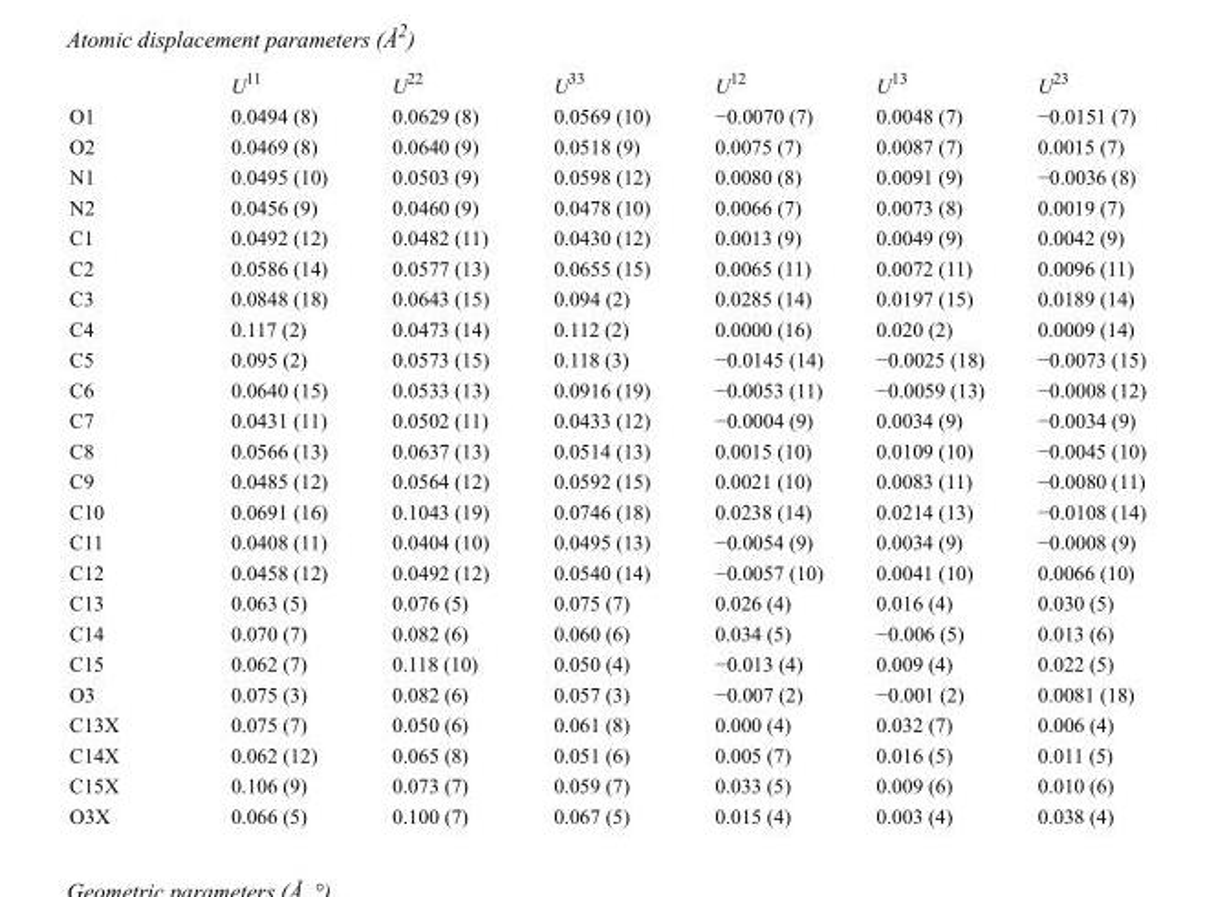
<table><thead><tr><td></td><td>U<sup>11</sup></td><td>U<sup>22</sup></td><td>U<sup>33</sup></td><td>U<sup>12</sup></td><td>U<sup>13</sup></td><td>U<sup>23</sup></td></tr></thead><tbody><tr><td>O1</td><td>0.0494 (8)</td><td>0.0629 (8)</td><td>0.0569 (10)</td><td>−0.0070 (7)</td><td>0.0048 (7)</td><td>−0.0151 (7)</td></tr><tr><td>O2</td><td>0.0469 (8)</td><td>0.0640 (9)</td><td>0.0518 (9)</td><td>0.0075 (7)</td><td>0.0087 (7)</td><td>0.0015 (7)</td></tr><tr><td>N1</td><td>0.0495 (10)</td><td>0.0503 (9)</td><td>0.0598 (12)</td><td>0.0080 (8)</td><td>0.0091 (9)</td><td>−0.0036 (8)</td></tr><tr><td>N2</td><td>0.0456 (9)</td><td>0.0460 (9)</td><td>0.0478 (10)</td><td>0.0066 (7)</td><td>0.0073 (8)</td><td>0.0019 (7)</td></tr><tr><td>C1</td><td>0.0492 (12)</td><td>0.0482 (11)</td><td>0.0430 (12)</td><td>0.0013 (9)</td><td>0.0049 (9)</td><td>0.0042 (9)</td></tr><tr><td>C2</td><td>0.0586 (14)</td><td>0.0577 (13)</td><td>0.0655 (15)</td><td>0.0065 (11)</td><td>0.0072 (11)</td><td>0.0096 (11)</td></tr><tr><td>C3</td><td>0.0848 (18)</td><td>0.0643 (15)</td><td>0.094 (2)</td><td>0.0285 (14)</td><td>0.0197 (15)</td><td>0.0189 (14)</td></tr><tr><td>C4</td><td>0.117 (2)</td><td>0.0473 (14)</td><td>0.112 (2)</td><td>0.0000 (16)</td><td>0.020 (2)</td><td>0.0009 (14)</td></tr><tr><td>C5</td><td>0.095 (2)</td><td>0.0573 (15)</td><td>0.118 (3)</td><td>−0.0145 (14)</td><td>−0.0025 (18)</td><td>−0.0073 (15)</td></tr><tr><td>C6</td><td>0.0640 (15)</td><td>0.0533 (13)</td><td>0.0916 (19)</td><td>−0.0053 (11)</td><td>−0.0059 (13)</td><td>−0.0008 (12)</td></tr><tr><td>C7</td><td>0.0431 (11)</td><td>0.0502 (11)</td><td>0.0433 (12)</td><td>−0.0004 (9)</td><td>0.0034 (9)</td><td>−0.0034 (9)</td></tr><tr><td>C8</td><td>0.0566 (13)</td><td>0.0637 (13)</td><td>0.0514 (13)</td><td>0.0015 (10)</td><td>0.0109 (10)</td><td>−0.0045 (10)</td></tr><tr><td>C9</td><td>0.0485 (12)</td><td>0.0564 (12)</td><td>0.0592 (15)</td><td>0.0021 (10)</td><td>0.0083 (11)</td><td>−0.0080 (11)</td></tr><tr><td>C10</td><td>0.0691 (16)</td><td>0.1043 (19)</td><td>0.0746 (18)</td><td>0.0238 (14)</td><td>0.0214 (13)</td><td>−0.0108 (14)</td></tr><tr><td>C11</td><td>0.0408 (11)</td><td>0.0404 (10)</td><td>0.0495 (13)</td><td>−0.0054 (9)</td><td>0.0034 (9)</td><td>−0.0008 (9)</td></tr><tr><td>C12</td><td>0.0458 (12)</td><td>0.0492 (12)</td><td>0.0540 (14)</td><td>−0.0057 (10)</td><td>0.0041 (10)</td><td>0.0066 (10)</td></tr><tr><td>C13</td><td>0.063 (5)</td><td>0.076 (5)</td><td>0.075 (7)</td><td>0.026 (4)</td><td>0.016 (4)</td><td>0.030 (5)</td></tr><tr><td>C14</td><td>0.070 (7)</td><td>0.082 (6)</td><td>0.060 (6)</td><td>0.034 (5)</td><td>−0.006 (5)</td><td>0.013 (6)</td></tr><tr><td>C15</td><td>0.062 (7)</td><td>0.118 (10)</td><td>0.050 (4)</td><td>−0.013 (4)</td><td>0.009 (4)</td><td>0.022 (5)</td></tr><tr><td>O3</td><td>0.075 (3)</td><td>0.082 (6)</td><td>0.057 (3)</td><td>−0.007 (2)</td><td>−0.001 (2)</td><td>0.0081 (18)</td></tr><tr><td>C13X</td><td>0.075 (7)</td><td>0.050 (6)</td><td>0.061 (8)</td><td>0.000 (4)</td><td>0.032 (7)</td><td>0.006 (4)</td></tr><tr><td>C14X</td><td>0.062 (12)</td><td>0.065 (8)</td><td>0.051 (6)</td><td>0.005 (7)</td><td>0.016 (5)</td><td>0.011 (5)</td></tr><tr><td>C15X</td><td>0.106 (9)</td><td>0.073 (7)</td><td>0.059 (7)</td><td>0.033 (5)</td><td>0.009 (6)</td><td>0.010 (6)</td></tr><tr><td>O3X</td><td>0.066 (5)</td><td>0.100 (7)</td><td>0.067 (5)</td><td>0.015 (4)</td><td>0.003 (4)</td><td>0.038 (4)</td></tr></tbody></table>